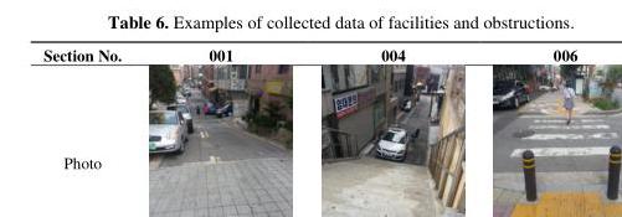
<table><thead><tr><td>Section No.</td><td>001</td><td>004</td><td>006</td></tr></thead><tbody><tr><td>Photo</td><td></td><td></td><td></td></tr></tbody></table>